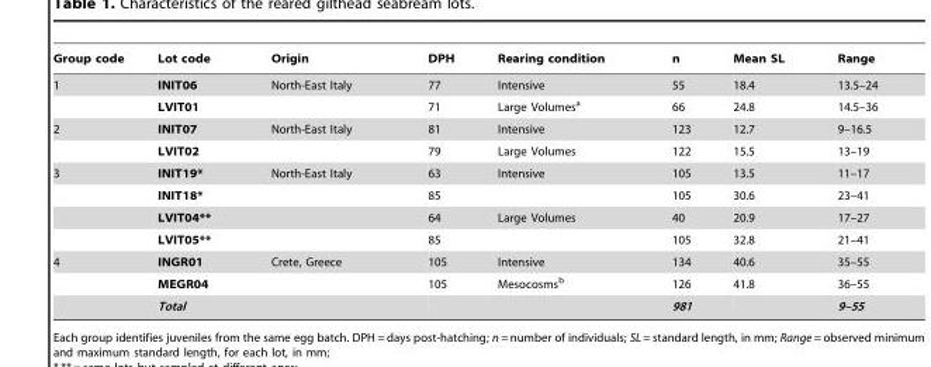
<table><thead><tr><td>Group code</td><td>Lot code</td><td>Origin</td><td>DPH</td><td>Rearing condition</td><td>n</td><td>Mean SL</td><td>Range</td></tr></thead><tbody><tr><td rowspan="2">1</td><td>INIT06</td><td>North-East Italy</td><td>77</td><td>Intensive</td><td>55</td><td>18.4</td><td>13.5–24</td></tr><tr><td>LVIT01</td><td></td><td>71</td><td>Large Volumes<sup>a</sup></td><td>66</td><td>24.8</td><td>14.5–36</td></tr><tr><td rowspan="2">2</td><td>INIT07</td><td>North-East Italy</td><td>81</td><td>Intensive</td><td>123</td><td>12.7</td><td>9–16.5</td></tr><tr><td>LVIT02</td><td></td><td>79</td><td>Large Volumes</td><td>122</td><td>15.5</td><td>13–19</td></tr><tr><td rowspan="4">3</td><td>INIT19*</td><td>North-East Italy</td><td>63</td><td>Intensive</td><td>105</td><td>13.5</td><td>11–17</td></tr><tr><td>INIT18*</td><td></td><td>85</td><td></td><td>105</td><td>30.6</td><td>23–41</td></tr><tr><td>LVIT04**</td><td></td><td>64</td><td>Large Volumes</td><td>40</td><td>20.9</td><td>17–27</td></tr><tr><td>LVIT05**</td><td></td><td>85</td><td></td><td>105</td><td>32.8</td><td>21–41</td></tr><tr><td rowspan="3">4</td><td>INGR01</td><td>Crete, Greece</td><td>105</td><td>Intensive</td><td>134</td><td>40.6</td><td>35–55</td></tr><tr><td>MEGR04</td><td></td><td>105</td><td>Mesocosms<sup>b</sup></td><td>126</td><td>41.8</td><td>36–55</td></tr><tr><td>Total</td><td></td><td></td><td></td><td>981</td><td></td><td>9–55</td></tr></tbody></table>